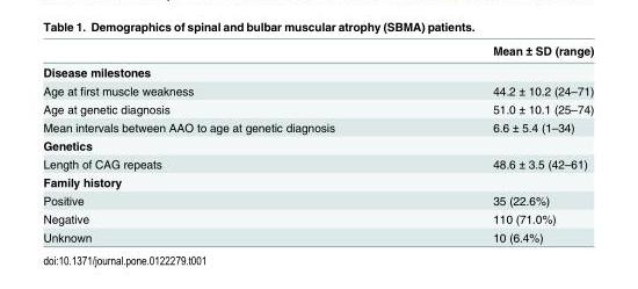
<table><thead><tr><td></td><td>Mean ± SD (range)</td></tr></thead><tbody><tr><td colspan="2">Disease milestones</td></tr><tr><td>Age at first muscle weakness</td><td>44.2 ± 10.2 (24–71)</td></tr><tr><td>Age at genetic diagnosis</td><td>51.0 ± 10.1 (25–74)</td></tr><tr><td>Mean intervals between AAO to age at genetic diagnosis</td><td>6.6 ± 5.4 (1–34)</td></tr><tr><td colspan="2">Genetics</td></tr><tr><td>Length of CAG repeats</td><td>48.6 ± 3.5 (42–61)</td></tr><tr><td colspan="2">Family history</td></tr><tr><td>Positive</td><td>35 (22.6%)</td></tr><tr><td>Negative</td><td>110 (71.0%)</td></tr><tr><td>Unknown</td><td>10 (6.4%)</td></tr></tbody></table>